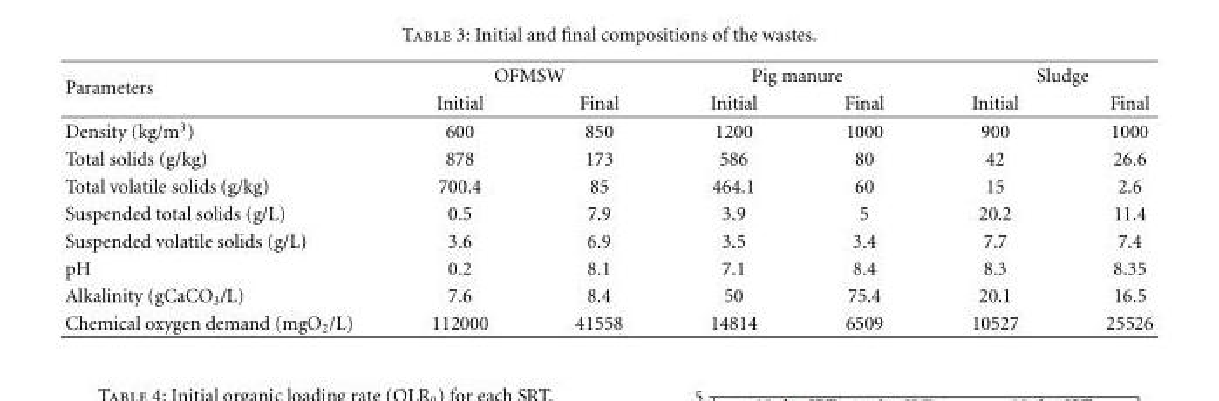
<table><thead><tr><td rowspan="2">Parameters</td><td colspan="2">OFMSW</td><td colspan="2">Pig manure</td><td colspan="2">Sludge</td></tr><tr><td>Initial</td><td>Final</td><td>Initial</td><td>Final</td><td>Initial</td><td>Final</td></tr></thead><tbody><tr><td>Density (kg/m<sup>3</sup>)</td><td>600</td><td>850</td><td>1200</td><td>1000</td><td>900</td><td>1000</td></tr><tr><td>Total solids (g/kg)</td><td>878</td><td>173</td><td>586</td><td>80</td><td>42</td><td>26.6</td></tr><tr><td>Total volatile solids (g/kg)</td><td>700.4</td><td>85</td><td>464.1</td><td>60</td><td>15</td><td>2.6</td></tr><tr><td>Suspended total solids (g/L)</td><td>0.5</td><td>7.9</td><td>3.9</td><td>5</td><td>20.2</td><td>11.4</td></tr><tr><td>Suspended volatile solids (g/L)</td><td>3.6</td><td>6.9</td><td>3.5</td><td>3.4</td><td>7.7</td><td>7.4</td></tr><tr><td>pH</td><td>0.2</td><td>8.1</td><td>7.1</td><td>8.4</td><td>8.3</td><td>8.35</td></tr><tr><td>Alkalinity (gCaCO<sub>3</sub>/L)</td><td>7.6</td><td>8.4</td><td>50</td><td>75.4</td><td>20.1</td><td>16.5</td></tr><tr><td>Chemical oxygen demand (mgO<sub>2</sub>/L)</td><td>112000</td><td>41558</td><td>14814</td><td>6509</td><td>10527</td><td>25526</td></tr></tbody></table>